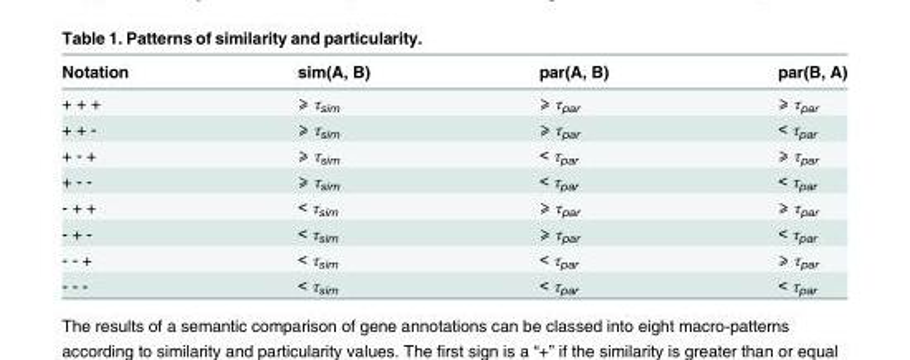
<table><thead><tr><td>Notation</td><td>sim(A, B)</td><td>par(A, B)</td><td>par(B, A)</td></tr></thead><tbody><tr><td>+ + +</td><td>⩾ τ<sub>sim</sub></td><td>⩾ τ<sub>par</sub></td><td>⩾ τ<sub>par</sub></td></tr><tr><td>+ + -</td><td>⩾ τ<sub>sim</sub></td><td>⩾ τ<sub>par</sub></td><td>&lt; τ<sub>par</sub></td></tr><tr><td>+ - +</td><td>⩾ τ<sub>sim</sub></td><td>&lt; τ<sub>par</sub></td><td>⩾ τ<sub>par</sub></td></tr><tr><td>+ - -</td><td>⩾ τ<sub>sim</sub></td><td>&lt; τ<sub>par</sub></td><td>&lt; τ<sub>par</sub></td></tr><tr><td>- + +</td><td>&lt; τ<sub>sim</sub></td><td>⩾ τ<sub>par</sub></td><td>⩾ τ<sub>par</sub></td></tr><tr><td>- + -</td><td>&lt; τ<sub>sim</sub></td><td>⩾ τ<sub>par</sub></td><td>&lt; τ<sub>par</sub></td></tr><tr><td>- - +</td><td>&lt; τ<sub>sim</sub></td><td>&lt; τ<sub>par</sub></td><td>⩾ τ<sub>par</sub></td></tr><tr><td>- - -</td><td>&lt; τ<sub>sim</sub></td><td>&lt; τ<sub>par</sub></td><td>&lt; τ<sub>par</sub></td></tr></tbody></table>